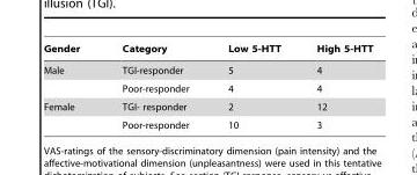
<table><thead><tr><td>Gender</td><td>Category</td><td>Low 5-HTT</td><td>High 5-HTT</td></tr></thead><tbody><tr><td rowspan="2">Male</td><td>TGI-responder</td><td>5</td><td>4</td></tr><tr><td>Poor-responder</td><td>4</td><td>4</td></tr><tr><td rowspan="2">Female</td><td>TGI- responder</td><td>2</td><td>12</td></tr><tr><td>Poor-responder</td><td>10</td><td>3</td></tr></tbody></table>